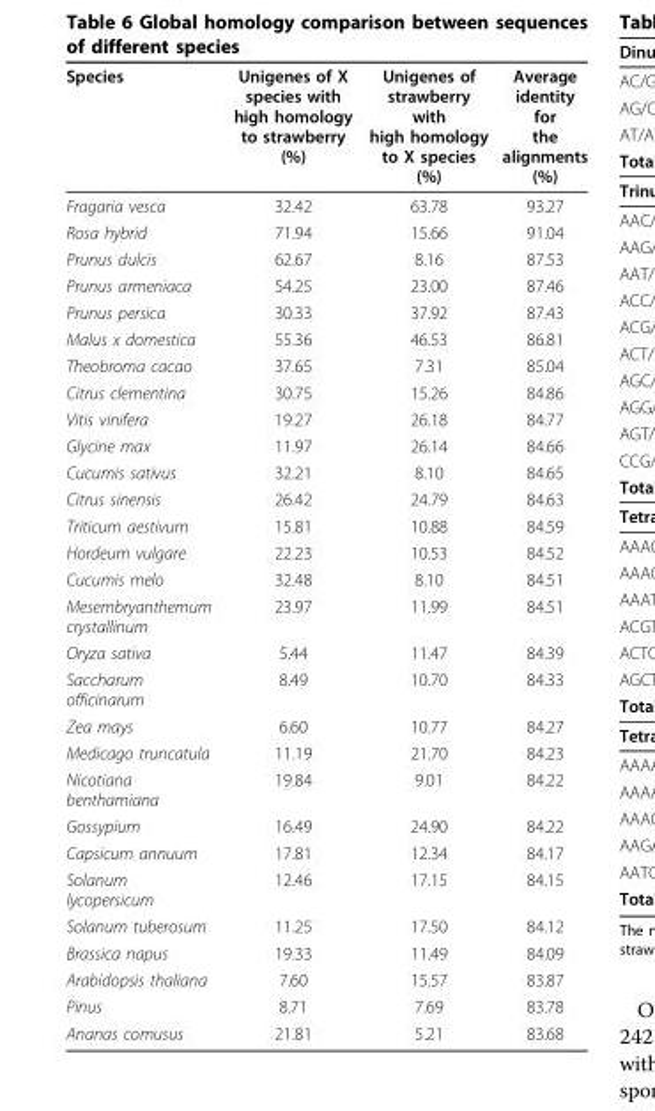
<table><thead><tr><td>Species</td><td>Unigenes of X species with high homology to strawberry (%)</td><td>Unigenes of strawberry with high homology to X species (%)</td><td>Average identity for the alignments (%)</td></tr></thead><tbody><tr><td>Fragaria vesca</td><td>32.42</td><td>63.78</td><td>93.27</td></tr><tr><td>Rosa hybrid</td><td>71.94</td><td>15.66</td><td>91.04</td></tr><tr><td>Prunus dulcis</td><td>62.67</td><td>8.16</td><td>87.53</td></tr><tr><td>Prunus armeniaca</td><td>54.25</td><td>23.00</td><td>87.46</td></tr><tr><td>Prunus persica</td><td>30.33</td><td>37.92</td><td>87.43</td></tr><tr><td>Malus x domestica</td><td>55.36</td><td>46.53</td><td>86.81</td></tr><tr><td>Theobroma cacao</td><td>37.65</td><td>7.31</td><td>85.04</td></tr><tr><td>Citrus clementina</td><td>30.75</td><td>15.26</td><td>84.86</td></tr><tr><td>Vitis vinifera</td><td>19.27</td><td>26.18</td><td>84.77</td></tr><tr><td>Glycine max</td><td>11.97</td><td>26.14</td><td>84.66</td></tr><tr><td>Cucumis sativus</td><td>32.21</td><td>8.10</td><td>84.65</td></tr><tr><td>Citrus sinensis</td><td>26.42</td><td>24.79</td><td>84.63</td></tr><tr><td>Triticum aestivum</td><td>15.81</td><td>10.88</td><td>84.59</td></tr><tr><td>Hordeum vulgare</td><td>22.23</td><td>10.53</td><td>84.52</td></tr><tr><td>Cucumis melo</td><td>32.48</td><td>8.10</td><td>84.51</td></tr><tr><td>Mesembryanthemum crystallinum</td><td>23.97</td><td>11.99</td><td>84.51</td></tr><tr><td>Oryza sativa</td><td>5.44</td><td>11.47</td><td>84.39</td></tr><tr><td>Saccharum officinarum</td><td>8.49</td><td>10.70</td><td>84.33</td></tr><tr><td>Zea mays</td><td>6.60</td><td>10.77</td><td>84.27</td></tr><tr><td>Medicago truncatula</td><td>11.19</td><td>21.70</td><td>84.23</td></tr><tr><td>Nicotiana benthamiana</td><td>19.84</td><td>9.01</td><td>84.22</td></tr><tr><td>Gossypium</td><td>16.49</td><td>24.90</td><td>84.22</td></tr><tr><td>Capsicum annuum</td><td>17.81</td><td>12.34</td><td>84.17</td></tr><tr><td>Solanum lycopersicum</td><td>12.46</td><td>17.15</td><td>84.15</td></tr><tr><td>Solanum tuberosum</td><td>11.25</td><td>17.50</td><td>84.12</td></tr><tr><td>Brassica napus</td><td>19.33</td><td>11.49</td><td>84.09</td></tr><tr><td>Arabidopsis thaliana</td><td>7.60</td><td>15.57</td><td>83.87</td></tr><tr><td>Pinus</td><td>8.71</td><td>7.69</td><td>83.78</td></tr><tr><td>Ananas comusus</td><td>21.81</td><td>5.21</td><td>83.68</td></tr></tbody></table>